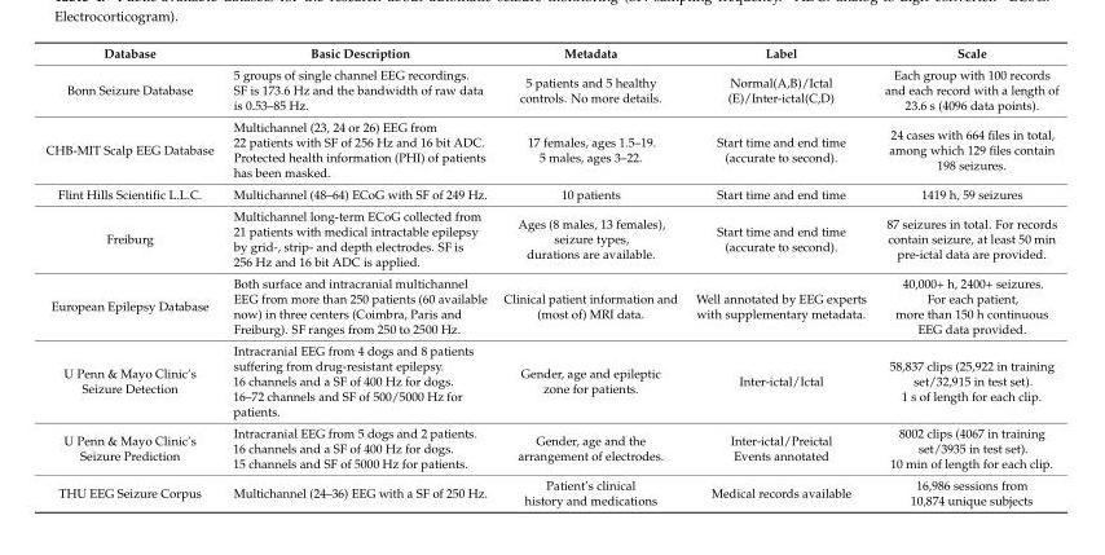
<table><thead><tr><td>Database</td><td>Basic Description</td><td>Metadata</td><td>Label</td><td>Scale</td></tr></thead><tbody><tr><td>Bonn Seizure Database</td><td>5 groups of single channel EEG recordings. SF is 173.6 Hz and the bandwidth of raw data is 0.53–85 Hz.</td><td>5 patients and 5 healthy controls. No more details.</td><td>Normal(A,B)/Ictal (E)/Inter-ictal(C,D)</td><td>Each group with 100 records and each record with a length of 23.6 s (4096 data points).</td></tr><tr><td>CHB-MIT Scalp EEG Database</td><td>Multichannel (23, 24 or 26) EEG from 22 patients with SF of 256 Hz and 16 bit ADC. Protected health information (PHI) of patients has been masked.</td><td>17 females, ages 1.5–19. 5 males, ages 3–22.</td><td>Start time and end time (accurate to second).</td><td>24 cases with 664 files in total, among which 129 files contain 198 seizures.</td></tr><tr><td>Flint Hills Scientific L.L.C.</td><td>Multichannel (48–64) ECoG with SF of 249 Hz.</td><td>10 patients</td><td>Start time and end time</td><td>1419 h, 59 seizures</td></tr><tr><td>Freiburg</td><td>Multichannel long-term ECoG collected from 21 patients with medical intractable epilepsy by grid-, strip- and depth electrodes. SF is 256 Hz and 16 bit ADC is applied.</td><td>Ages (8 males, 13 females), seizure types, durations are available.</td><td>Start time and end time (accurate to second).</td><td>87 seizures in total. For records contain seizure, at least 50 min pre-ictal data are provided.</td></tr><tr><td>European Epilepsy Database</td><td>Both surface and intracranial multichannel EEG from more than 250 patients (60 available now) in three centers (Coimbra, Paris and Freiburg). SF ranges from 250 to 2500 Hz.</td><td>Clinical patient information and (most of) MRI data.</td><td>Well annotated by EEG experts with supplementary metadata.</td><td>40,000+ h, 2400+ seizures. For each patient, more than 150 h continuous EEG data provided.</td></tr><tr><td>U Penn &amp; Mayo Clinic’s Seizure Detection</td><td>Intracranial EEG from 4 dogs and 8 patients suffering from drug-resistant epilepsy. 16 channels and a SF of 400 Hz for dogs. 16–72 channels and SF of 500/5000 Hz for patients.</td><td>Gender, age and epileptic zone for patients.</td><td>Inter-ictal/Ictal</td><td>58,837 clips (25,922 in training set/32,915 in test set). 1 s of length for each clip.</td></tr><tr><td>U Penn &amp; Mayo Clinic’s Seizure Prediction</td><td>Intracranial EEG from 5 dogs and 2 patients. 16 channels and a SF of 400 Hz for dogs. 15 channels and SF of 5000 Hz for patients.</td><td>Gender, age and the arrangement of electrodes.</td><td>Inter-ictal/Preictal Events annotated</td><td>8002 clips (4067 in training set/3935 in test set). 10 min of length for each clip.</td></tr><tr><td>THU EEG Seizure Corpus</td><td>Multichannel (24–36) EEG with a SF of 250 Hz.</td><td>Patient’s clinical history and medications</td><td>Medical records available</td><td>16,986 sessions from 10,874 unique subjects</td></tr></tbody></table>